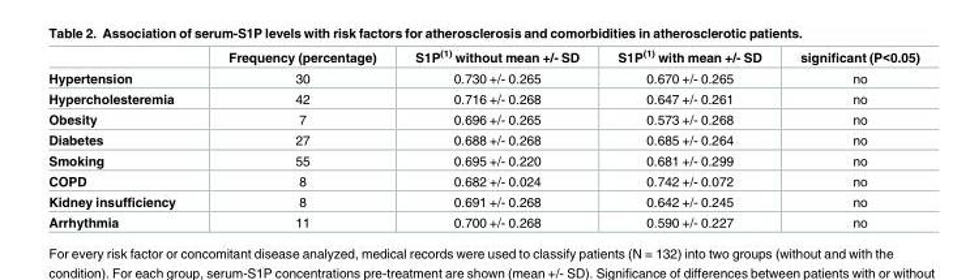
<table><thead><tr><td></td><td>Frequency (percentage)</td><td>S1P<sup>(1)</sup> without mean +/- SD</td><td>S1P<sup>(1)</sup> with mean +/- SD</td><td>significant (P&lt;0.05)</td></tr></thead><tbody><tr><td>Hypertension</td><td>30</td><td>0.730 +/- 0.265</td><td>0.670 +/- 0.265</td><td>no</td></tr><tr><td>Hypercholesteremia</td><td>42</td><td>0.716 +/- 0.268</td><td>0.647 +/- 0.261</td><td>no</td></tr><tr><td>Obesity</td><td>7</td><td>0.696 +/- 0.265</td><td>0.573 +/- 0.268</td><td>no</td></tr><tr><td>Diabetes</td><td>27</td><td>0.688 +/- 0.268</td><td>0.685 +/- 0.264</td><td>no</td></tr><tr><td>Smoking</td><td>55</td><td>0.695 +/- 0.220</td><td>0.681 +/- 0.299</td><td>no</td></tr><tr><td>COPD</td><td>8</td><td>0.682 +/- 0.024</td><td>0.742 +/- 0.072</td><td>no</td></tr><tr><td>Kidney insufficiency</td><td>8</td><td>0.691 +/- 0.268</td><td>0.642 +/- 0.245</td><td>no</td></tr><tr><td>Arrhythmia</td><td>11</td><td>0.700 +/- 0.268</td><td>0.590 +/- 0.227</td><td>no</td></tr></tbody></table>